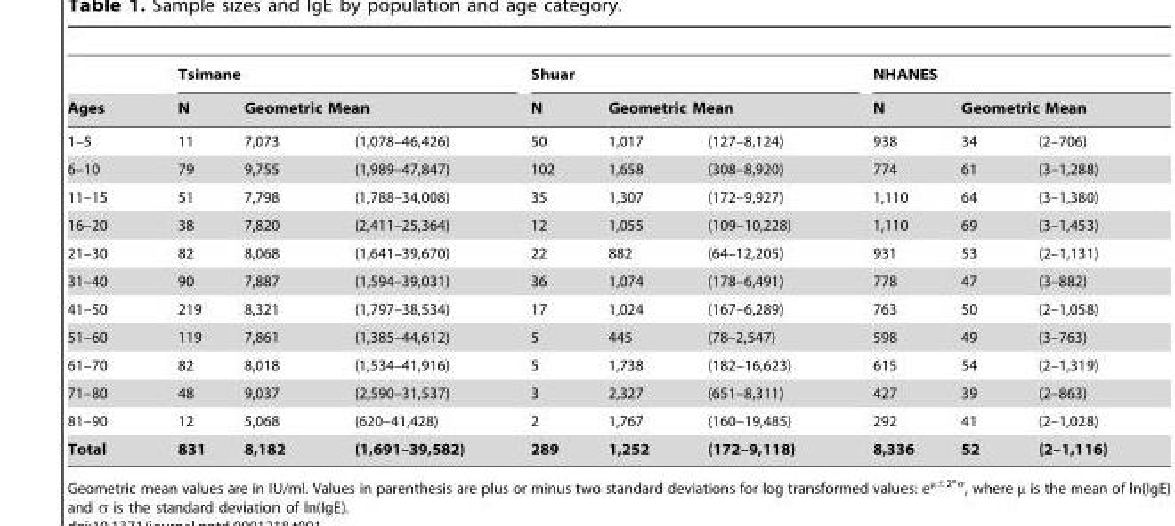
<table><thead><tr><td rowspan="3">Ages 1–5</td><td colspan="3">Tsimane</td><td colspan="3">Shuar</td><td colspan="3">NHANES</td></tr><tr><td rowspan="2">N 11</td><td colspan="2">Geometric Mean</td><td rowspan="2">N 50</td><td colspan="2">Geometric Mean</td><td rowspan="2">N 938</td><td colspan="2">Geometric Mean</td></tr><tr><td>7,073</td><td>(1,078–46,426)</td><td>1,017</td><td>(127–8,124)</td><td>34</td><td>(2–706)</td></tr></thead><tbody><tr><td>6–10</td><td>79</td><td>9,755</td><td>(1,989–47,847)</td><td>102</td><td>1,658</td><td>(308–8,920)</td><td>774</td><td>61</td><td>(3–1,288)</td></tr><tr><td>11–15</td><td>51</td><td>7,798</td><td>(1,788–34,008)</td><td>35</td><td>1,307</td><td>(172–9,927)</td><td>1,110</td><td>64</td><td>(3–1,380)</td></tr><tr><td>16–20</td><td>38</td><td>7,820</td><td>(2,411–25,364)</td><td>12</td><td>1,055</td><td>(109–10,228)</td><td>1,110</td><td>69</td><td>(3–1,453)</td></tr><tr><td>21–30</td><td>82</td><td>8,068</td><td>(1,641–39,670)</td><td>22</td><td>882</td><td>(64–12,205)</td><td>931</td><td>53</td><td>(2–1,131)</td></tr><tr><td>31–40</td><td>90</td><td>7,887</td><td>(1,594–39,031)</td><td>36</td><td>1,074</td><td>(178–6,491)</td><td>778</td><td>47</td><td>(3–882)</td></tr><tr><td>41–50</td><td>219</td><td>8,321</td><td>(1,797–38,534)</td><td>17</td><td>1,024</td><td>(167–6,289)</td><td>763</td><td>50</td><td>(2–1,058)</td></tr><tr><td>51–60</td><td>119</td><td>7,861</td><td>(1,385–44,612)</td><td>5</td><td>445</td><td>(78–2,547)</td><td>598</td><td>49</td><td>(3–763)</td></tr><tr><td>61–70</td><td>82</td><td>8,018</td><td>(1,534–41,916)</td><td>5</td><td>1,738</td><td>(182–16,623)</td><td>615</td><td>54</td><td>(2–1,319)</td></tr><tr><td>71–80</td><td>48</td><td>9,037</td><td>(2,590–31,537)</td><td>3</td><td>2,327</td><td>(651–8,311)</td><td>427</td><td>39</td><td>(2–863)</td></tr><tr><td>81–90</td><td>12</td><td>5,068</td><td>(620–41,428)</td><td>2</td><td>1,767</td><td>(160–19,485)</td><td>292</td><td>41</td><td>(2–1,028)</td></tr><tr><td>Total</td><td>831</td><td>8,182</td><td>(1,691–39,582)</td><td>289</td><td>1,252</td><td>(172–9,118)</td><td>8,336</td><td>52</td><td>(2–1,116)</td></tr></tbody></table>